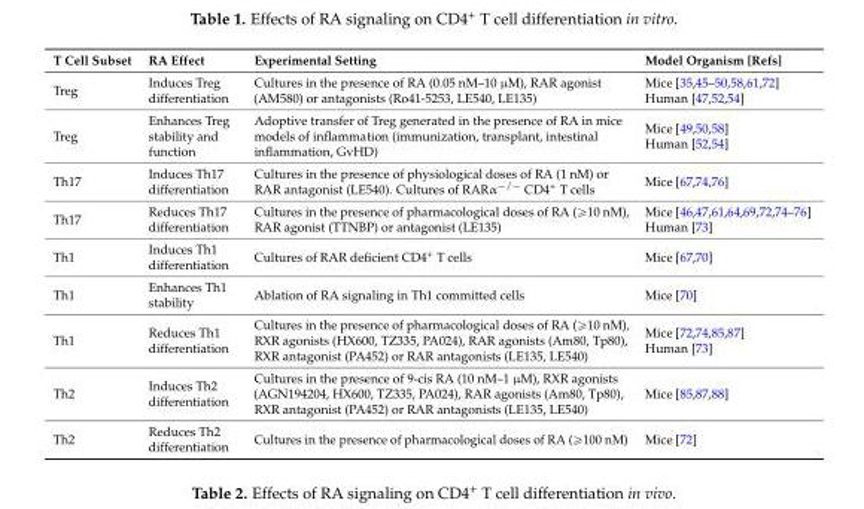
<table><thead><tr><td>T Cell Subset</td><td>RA Effect</td><td>Experimental Setting</td><td>Model Organism [Refs]</td></tr></thead><tbody><tr><td>Treg</td><td>Induces Treg differentiation</td><td>Cultures in the presence of RA (0.05 nM–10 µM), RAR agonist (AM580) or antagonists (Ro41-5253, LE540, LE135)</td><td>Mice [35,45–50,58,61,72] Human [47,52,54]</td></tr><tr><td>Treg</td><td>Enhances Treg stability and function</td><td>Adoptive transfer of Treg generated in the presence of RA in mice models of inflammation (immunization, transplant, intestinal inflammation, GvHD)</td><td>Mice [49,50,58] Human [52,54]</td></tr><tr><td>Th17</td><td>Induces Th17 differentiation</td><td>Cultures in the presence of physiological doses of RA (1 nM) or RAR antagonist (LE540). Cultures of RARα<sup>−/−</sup> CD4<sup>+</sup> T cells</td><td>Mice [67,74,76]</td></tr><tr><td>Th17</td><td>Reduces Th17 differentiation</td><td>Cultures in the presence of pharmacological doses of RA (ě10 nM), RAR agonist (TTNBP) or antagonist (LE135)</td><td>Mice [46,47,61,64,69,72,74–76] Human [73]</td></tr><tr><td>Th1</td><td>Induces Th1 differentiation</td><td>Cultures of RAR deficient CD4<sup>+</sup> T cells</td><td>Mice [67,70]</td></tr><tr><td>Th1</td><td>Enhances Th1 stability</td><td>Ablation of RA signaling in Th1 committed cells</td><td>Mice [70]</td></tr><tr><td>Th1</td><td>Reduces Th1 differentiation</td><td>Cultures in the presence of pharmacological doses of RA (ě10 nM), RXR agonists (HX600, TZ335, PA024), RAR agonists (Am80, Tp80), RXR antagonist (PA452) or RAR antagonists (LE135, LE540)</td><td>Mice [72,74,85,87] Human [73]</td></tr><tr><td>Th2</td><td>Induces Th2 differentiation</td><td>Cultures in the presence of 9-cis RA (10 nM–1 µM), RXR agonists (AGN194204, HX600, TZ335, PA024), RAR agonists (Am80, Tp80), RXR antagonist (PA452) or RAR antagonists (LE135, LE540)</td><td>Mice [85,87,88]</td></tr><tr><td>Th2</td><td>Reduces Th2 differentiation</td><td>Cultures in the presence of pharmacological doses of RA (ě100 nM)</td><td>Mice [72]</td></tr></tbody></table>